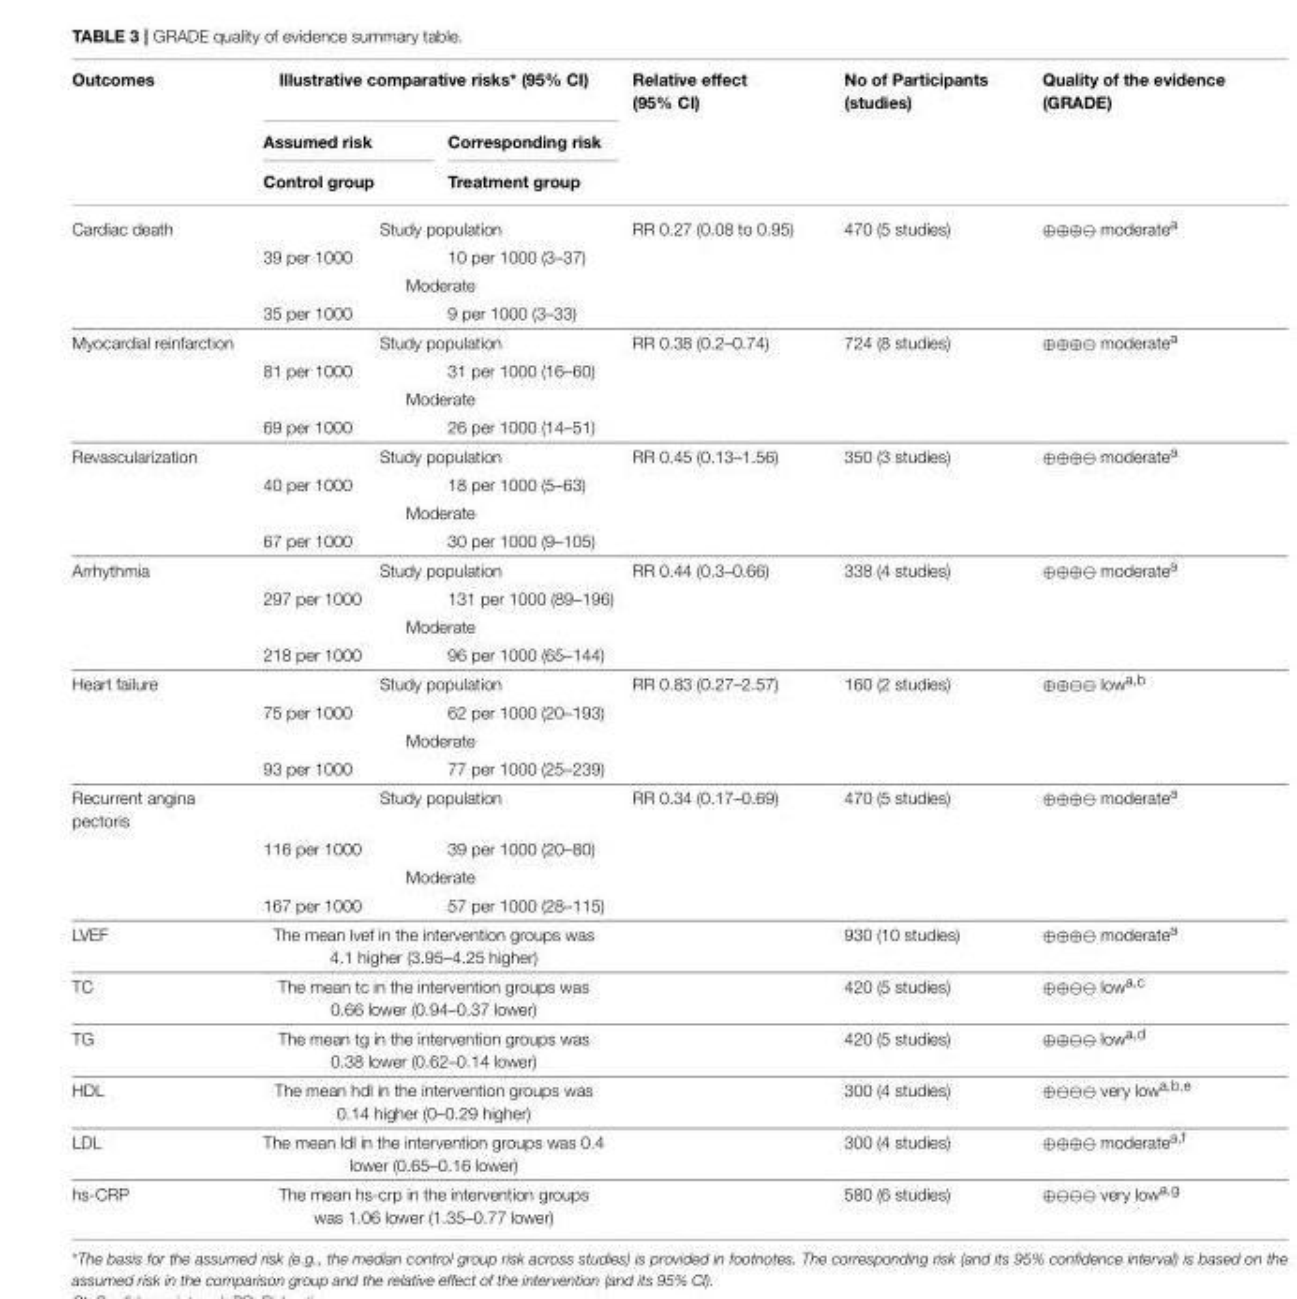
<table><thead><tr><td rowspan="3">Outcomes</td><td colspan="2">Illustrative comparative risks* (95% CI)</td><td rowspan="3">Relative effect (95% CI)</td><td rowspan="3">No of Participants (studies)</td><td rowspan="3">Quality of the evidence (GRADE)</td></tr><tr><td rowspan="2">Assumed risk Control group</td><td rowspan="2">Corresponding risk Treatment group</td></tr><tr></tr></thead><tbody><tr><td rowspan="4">Cardiac death</td><td colspan="2">Study population</td><td>RR 0.27 (0.08 to 0.95)</td><td>470 (5 studies)</td><td>⊕⊕⊕⊖ moderate<sup>a</sup></td></tr><tr><td>39 per 1000</td><td>10 per 1000 (3–37)</td><td></td><td></td><td></td></tr><tr><td colspan="2">Moderate</td><td></td><td></td><td></td></tr><tr><td>35 per 1000</td><td>9 per 1000 (3–33)</td><td></td><td></td><td></td></tr><tr><td rowspan="4">Myocardial reinfarction</td><td colspan="2">Study population</td><td>RR 0.38 (0.2–0.74)</td><td>724 (8 studies)</td><td>⊕⊕⊕⊖ moderate<sup>a</sup></td></tr><tr><td>81 per 1000</td><td>31 per 1000 (16–60)</td><td></td><td></td><td></td></tr><tr><td colspan="2">Moderate</td><td></td><td></td><td></td></tr><tr><td>69 per 1000</td><td>26 per 1000 (14–51)</td><td></td><td></td><td></td></tr><tr><td rowspan="4">Revascularization</td><td colspan="2">Study population</td><td>RR 0.45 (0.13–1.56)</td><td>350 (3 studies)</td><td>⊕⊕⊕⊖ moderate<sup>a</sup></td></tr><tr><td>40 per 1000</td><td>18 per 1000 (5–63)</td><td></td><td></td><td></td></tr><tr><td colspan="2">Moderate</td><td></td><td></td><td></td></tr><tr><td>67 per 1000</td><td>30 per 1000 (9–105)</td><td></td><td></td><td></td></tr><tr><td rowspan="4">Arrhythmia</td><td colspan="2">Study population</td><td>RR 0.44 (0.3–0.66)</td><td>338 (4 studies)</td><td>⊕⊕⊕⊖ moderate<sup>a</sup></td></tr><tr><td>297 per 1000</td><td>131 per 1000 (89–196)</td><td></td><td></td><td></td></tr><tr><td colspan="2">Moderate</td><td></td><td></td><td></td></tr><tr><td>218 per 1000</td><td>96 per 1000 (65–144)</td><td></td><td></td><td></td></tr><tr><td rowspan="4">Heart failure</td><td colspan="2">Study population</td><td>RR 0.83 (0.27–2.57)</td><td>160 (2 studies)</td><td>⊕⊕⊖⊖ low<sup>a,b</sup></td></tr><tr><td>75 per 1000</td><td>62 per 1000 (20–193)</td><td></td><td></td><td></td></tr><tr><td colspan="2">Moderate</td><td></td><td></td><td></td></tr><tr><td>93 per 1000</td><td>77 per 1000 (25–239)</td><td></td><td></td><td></td></tr><tr><td rowspan="4">Recurrent angina pectoris</td><td colspan="2">Study population</td><td>RR 0.34 (0.17–0.69)</td><td>470 (5 studies)</td><td>⊕⊕⊕⊖ moderate<sup>a</sup></td></tr><tr><td>116 per 1000</td><td>39 per 1000 (20–80)</td><td></td><td></td><td></td></tr><tr><td colspan="2">Moderate</td><td></td><td></td><td></td></tr><tr><td>167 per 1000</td><td>57 per 1000 (28–115)</td><td></td><td></td><td></td></tr><tr><td>LVEF</td><td colspan="2">The mean lvef in the intervention groups was 4.1 higher (3.95–4.25 higher)</td><td></td><td>930 (10 studies)</td><td>⊕⊕⊕⊖ moderate<sup>a</sup></td></tr><tr><td>TC</td><td colspan="2">The mean tc in the intervention groups was 0.66 lower (0.94–0.37 lower)</td><td></td><td>420 (5 studies)</td><td>⊕⊕⊖⊖ low<sup>a,c</sup></td></tr><tr><td>TG</td><td colspan="2">The mean tg in the intervention groups was 0.38 lower (0.62–0.14 lower)</td><td></td><td>420 (5 studies)</td><td>⊕⊕⊖⊖ low<sup>a,d</sup></td></tr><tr><td>HDL</td><td colspan="2">The mean hdl in the intervention groups was 0.14 higher (0–0.29 higher)</td><td></td><td>300 (4 studies)</td><td>⊕⊖⊖⊖ very low<sup>a,b,e</sup></td></tr><tr><td>LDL</td><td colspan="2">The mean ldl in the intervention groups was 0.4 lower (0.65–0.16 lower)</td><td></td><td>300 (4 studies)</td><td>⊕⊕⊕⊖ moderate<sup>a,f</sup></td></tr><tr><td>hs-CRP</td><td colspan="2">The mean hs-crp in the intervention groups was 1.06 lower (1.35–0.77 lower)</td><td></td><td>580 (6 studies)</td><td>⊕⊖⊖⊖ very low<sup>a,g</sup></td></tr></tbody></table>